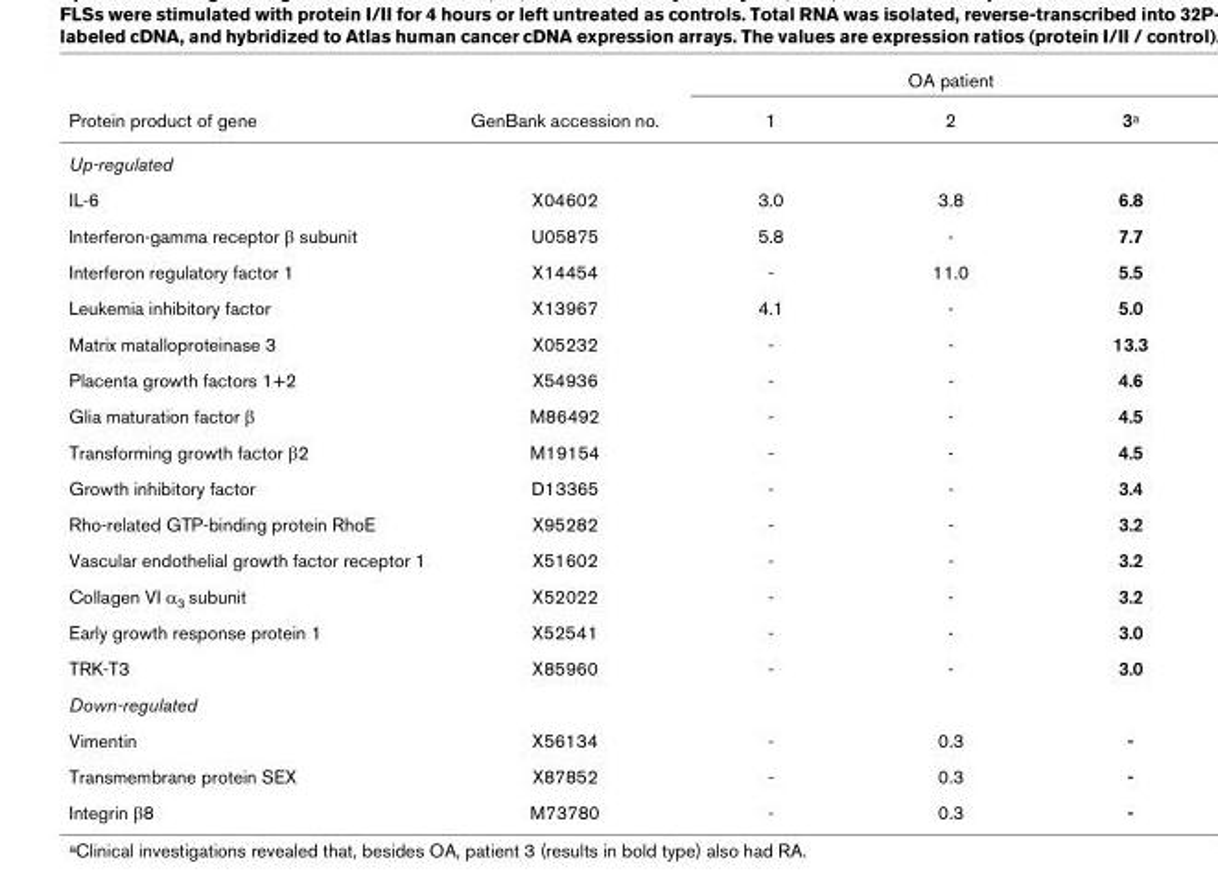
<table><thead><tr><td rowspan="2">Protein product of gene</td><td rowspan="2">GenBank accession no.</td><td colspan="3">OA patient</td></tr><tr><td>1</td><td>2</td><td>3a</td></tr></thead><tbody><tr><td colspan="5">Up-regulated</td></tr><tr><td>IL-6</td><td>X04602</td><td>3.0</td><td>3.8</td><td>6.8</td></tr><tr><td>Interferon-gamma receptor β subunit</td><td>U05875</td><td>5.8</td><td>-</td><td>7.7</td></tr><tr><td>Interferon regulatory factor 1</td><td>X14454</td><td>-</td><td>11.0</td><td>5.5</td></tr><tr><td>Leukemia inhibitory factor</td><td>X13967</td><td>4.1</td><td>-</td><td>5.0</td></tr><tr><td>Matrix matalloproteinase 3</td><td>X05232</td><td>-</td><td>-</td><td>13.3</td></tr><tr><td>Placenta growth factors 1+2</td><td>X54936</td><td>-</td><td>-</td><td>4.6</td></tr><tr><td>Glia maturation factor β</td><td>M86492</td><td>-</td><td>-</td><td>4.5</td></tr><tr><td>Transforming growth factor β2</td><td>M19154</td><td>-</td><td>-</td><td>4.5</td></tr><tr><td>Growth inhibitory factor</td><td>D13365</td><td>-</td><td>-</td><td>3.4</td></tr><tr><td>Rho-related GTP-binding protein RhoE</td><td>X95282</td><td>-</td><td>-</td><td>3.2</td></tr><tr><td>Vascular endothelial growth factor receptor 1</td><td>X51602</td><td>-</td><td>-</td><td>3.2</td></tr><tr><td>Collagen VI α3 subunit</td><td>X52022</td><td>-</td><td>-</td><td>3.2</td></tr><tr><td>Early growth response protein 1</td><td>X52541</td><td>-</td><td>-</td><td>3.0</td></tr><tr><td>TRK-T3</td><td>X85960</td><td>-</td><td>-</td><td>3.0</td></tr><tr><td colspan="5">Down-regulated</td></tr><tr><td>Vimentin</td><td>X56134</td><td>-</td><td>0.3</td><td>-</td></tr><tr><td>Transmembrane protein SEX</td><td>X87852</td><td>-</td><td>0.3</td><td>-</td></tr><tr><td>Integrin β8</td><td>M73780</td><td>-</td><td>0.3</td><td>-</td></tr></tbody></table>